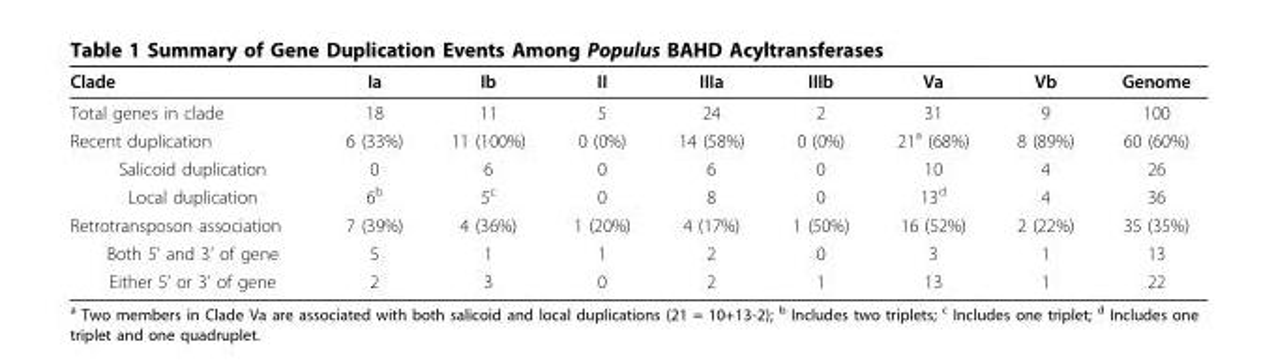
<table><thead><tr><td>Clade</td><td>Ia</td><td>Ib</td><td>II</td><td>IIIa</td><td>IIIb</td><td>Va</td><td>Vb</td><td>Genome</td></tr></thead><tbody><tr><td>Total genes in clade</td><td>18</td><td>11</td><td>5</td><td>24</td><td>2</td><td>31</td><td>9</td><td>100</td></tr><tr><td>Recent duplication</td><td>6 (33%)</td><td>11 (100%)</td><td>0 (0%)</td><td>14 (58%)</td><td>0 (0%)</td><td>21<sup>a</sup> (68%)</td><td>8 (89%)</td><td>60 (60%)</td></tr><tr><td>Salicoid duplication</td><td>0</td><td>6</td><td>0</td><td>6</td><td>0</td><td>10</td><td>4</td><td>26</td></tr><tr><td>Local duplication</td><td>6<sup>b</sup></td><td>5<sup>c</sup></td><td>0</td><td>8</td><td>0</td><td>13<sup>d</sup></td><td>4</td><td>36</td></tr><tr><td>Retrotransposon association</td><td>7 (39%)</td><td>4 (36%)</td><td>1 (20%)</td><td>4 (17%)</td><td>1 (50%)</td><td>16 (52%)</td><td>2 (22%)</td><td>35 (35%)</td></tr><tr><td>Both 5’ and 3’ of gene</td><td>5</td><td>1</td><td>1</td><td>2</td><td>0</td><td>3</td><td>1</td><td>13</td></tr><tr><td>Either 5’ or 3’ of gene</td><td>2</td><td>3</td><td>0</td><td>2</td><td>1</td><td>13</td><td>1</td><td>22</td></tr></tbody></table>